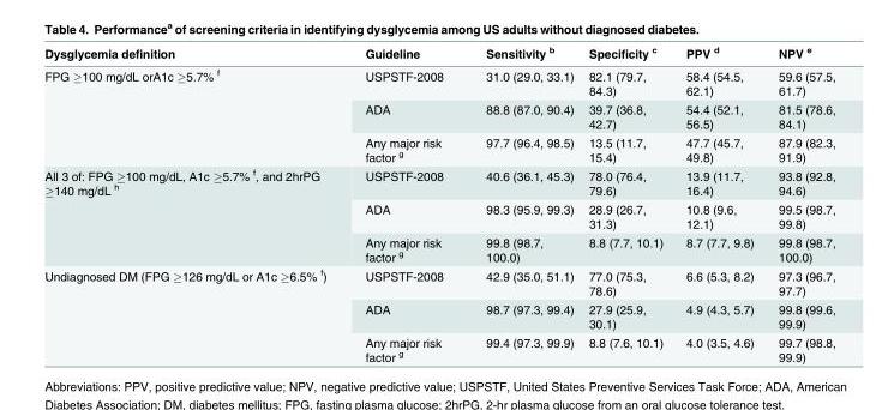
<table><thead><tr><td>Dysglycemia definition</td><td>Guideline</td><td>Sensitivity <sup>b</sup></td><td>Specificity <sup>c</sup></td><td>PPV <sup>d</sup></td><td>NPV <sup>e</sup></td></tr></thead><tbody><tr><td rowspan="3">FPG ≥100 mg/dL orA1c ≥5.7% <sup>f</sup></td><td>USPSTF-2008</td><td>31.0 (29.0, 33.1)</td><td>82.1 (79.7, 84.3)</td><td>58.4 (54.5, 62.1)</td><td>59.6 (57.5, 61.7)</td></tr><tr><td>ADA</td><td>88.8 (87.0, 90.4)</td><td>39.7 (36.8, 42.7)</td><td>54.4 (52.1, 56.5)</td><td>81.5 (78.6, 84.1)</td></tr><tr><td>Any major risk factor <sup>g</sup></td><td>97.7 (96.4, 98.5)</td><td>13.5 (11.7, 15.4)</td><td>47.7 (45.7, 49.8)</td><td>87.9 (82.3, 91.9)</td></tr><tr><td rowspan="3">All 3 of: FPG ≥100 mg/dL, A1c ≥5.7% <sup>f</sup>, and 2hrPG ≥140 mg/dL <sup>h</sup></td><td>USPSTF-2008</td><td>40.6 (36.1, 45.3)</td><td>78.0 (76.4, 79.6)</td><td>13.9 (11.7, 16.4)</td><td>93.8 (92.8, 94.6)</td></tr><tr><td>ADA</td><td>98.3 (95.9, 99.3)</td><td>28.9 (26.7, 31.3)</td><td>10.8 (9.6, 12.1)</td><td>99.5 (98.7, 99.8)</td></tr><tr><td>Any major risk factor <sup>g</sup></td><td>99.8 (98.7, 100.0)</td><td>8.8 (7.7, 10.1)</td><td>8.7 (7.7, 9.8)</td><td>99.8 (98.7, 100.0)</td></tr><tr><td rowspan="3">Undiagnosed DM (FPG ≥126 mg/dL or A1c ≥6.5% <sup>f</sup>)</td><td>USPSTF-2008</td><td>42.9 (35.0, 51.1)</td><td>77.0 (75.3, 78.6)</td><td>6.6 (5.3, 8.2)</td><td>97.3 (96.7, 97.7)</td></tr><tr><td>ADA</td><td>98.7 (97.3, 99.4)</td><td>27.9 (25.9, 30.1)</td><td>4.9 (4.3, 5.7)</td><td>99.8 (99.6, 99.9)</td></tr><tr><td>Any major risk factor <sup>g</sup></td><td>99.4 (97.3, 99.9)</td><td>8.8 (7.6, 10.1)</td><td>4.0 (3.5, 4.6)</td><td>99.7 (98.8, 99.9)</td></tr></tbody></table>